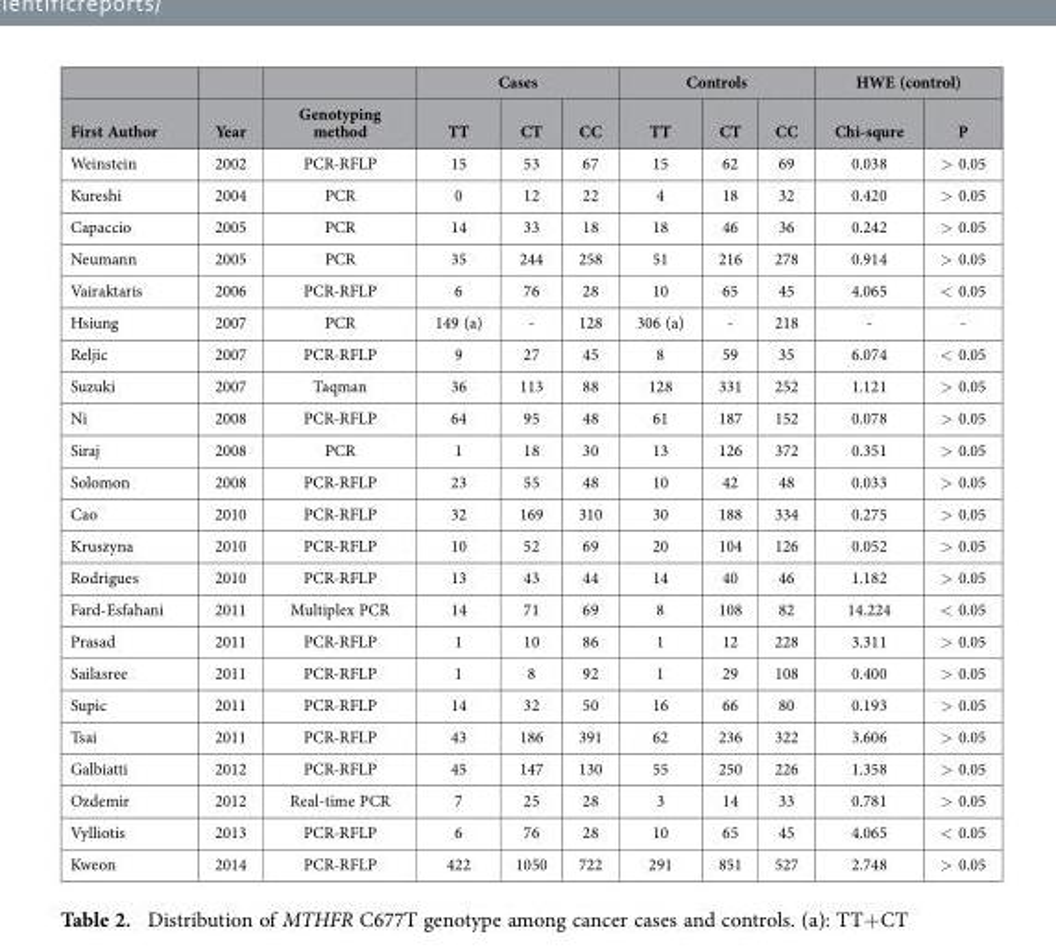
<table><thead><tr><td rowspan="2">First Author</td><td rowspan="2">Year</td><td rowspan="2">Genotyping method</td><td colspan="3">Cases</td><td colspan="3">Controls</td><td colspan="2">HWE (control)</td></tr><tr><td>TT</td><td>CT</td><td>CC</td><td>TT</td><td>CT</td><td>CC</td><td>Chi-squre</td><td>P</td></tr></thead><tbody><tr><td>Weinstein</td><td>2002</td><td>PCR-RFLP</td><td>15</td><td>53</td><td>67</td><td>15</td><td>62</td><td>69</td><td>0.038</td><td>&gt; 0.05</td></tr><tr><td>Kureshi</td><td>2004</td><td>PCR</td><td>0</td><td>12</td><td>22</td><td>4</td><td>18</td><td>32</td><td>0.420</td><td>&gt; 0.05</td></tr><tr><td>Capaccio</td><td>2005</td><td>PCR</td><td>14</td><td>33</td><td>18</td><td>18</td><td>46</td><td>36</td><td>0.242</td><td>&gt; 0.05</td></tr><tr><td>Neumann</td><td>2005</td><td>PCR</td><td>35</td><td>244</td><td>258</td><td>51</td><td>216</td><td>278</td><td>0.914</td><td>&gt; 0.05</td></tr><tr><td>Vairaktaris</td><td>2006</td><td>PCR-RFLP</td><td>6</td><td>76</td><td>28</td><td>10</td><td>65</td><td>45</td><td>4.065</td><td>&lt; 0.05</td></tr><tr><td>Hsiung</td><td>2007</td><td>PCR</td><td>149 (a)</td><td>-</td><td>128</td><td>306 (a)</td><td>-</td><td>218</td><td>-</td><td>-</td></tr><tr><td>Reljic</td><td>2007</td><td>PCR-RFLP</td><td>9</td><td>27</td><td>45</td><td>8</td><td>59</td><td>35</td><td>6.074</td><td>&lt; 0.05</td></tr><tr><td>Suzuki</td><td>2007</td><td>Taqman</td><td>36</td><td>113</td><td>88</td><td>128</td><td>331</td><td>252</td><td>1.121</td><td>&gt; 0.05</td></tr><tr><td>Ni</td><td>2008</td><td>PCR-RFLP</td><td>64</td><td>95</td><td>48</td><td>61</td><td>187</td><td>152</td><td>0.078</td><td>&gt; 0.05</td></tr><tr><td>Siraj</td><td>2008</td><td>PCR</td><td>1</td><td>18</td><td>30</td><td>13</td><td>126</td><td>372</td><td>0.351</td><td>&gt; 0.05</td></tr><tr><td>Solomon</td><td>2008</td><td>PCR-RFLP</td><td>23</td><td>55</td><td>48</td><td>10</td><td>42</td><td>48</td><td>0.033</td><td>&gt; 0.05</td></tr><tr><td>Cao</td><td>2010</td><td>PCR-RFLP</td><td>32</td><td>169</td><td>310</td><td>30</td><td>188</td><td>334</td><td>0.275</td><td>&gt; 0.05</td></tr><tr><td>Kruszyna</td><td>2010</td><td>PCR-RFLP</td><td>10</td><td>52</td><td>69</td><td>20</td><td>104</td><td>126</td><td>0.052</td><td>&gt; 0.05</td></tr><tr><td>Rodrigues</td><td>2010</td><td>PCR-RFLP</td><td>13</td><td>43</td><td>44</td><td>14</td><td>40</td><td>46</td><td>1.182</td><td>&gt; 0.05</td></tr><tr><td>Fard-Esfahani</td><td>2011</td><td>Multiplex PCR</td><td>14</td><td>71</td><td>69</td><td>8</td><td>108</td><td>82</td><td>14.224</td><td>&lt; 0.05</td></tr><tr><td>Prasad</td><td>2011</td><td>PCR-RFLP</td><td>1</td><td>10</td><td>86</td><td>1</td><td>12</td><td>228</td><td>3.311</td><td>&gt; 0.05</td></tr><tr><td>Sailasree</td><td>2011</td><td>PCR-RFLP</td><td>1</td><td>8</td><td>92</td><td>1</td><td>29</td><td>108</td><td>0.400</td><td>&gt; 0.05</td></tr><tr><td>Supic</td><td>2011</td><td>PCR-RFLP</td><td>14</td><td>32</td><td>50</td><td>16</td><td>66</td><td>80</td><td>0.193</td><td>&gt; 0.05</td></tr><tr><td>Tsai</td><td>2011</td><td>PCR-RFLP</td><td>43</td><td>186</td><td>391</td><td>62</td><td>236</td><td>322</td><td>3.606</td><td>&gt; 0.05</td></tr><tr><td>Galbiatti</td><td>2012</td><td>PCR-RFLP</td><td>45</td><td>147</td><td>130</td><td>55</td><td>250</td><td>226</td><td>1.358</td><td>&gt; 0.05</td></tr><tr><td>Ozdemir</td><td>2012</td><td>Real-time PCR</td><td>7</td><td>25</td><td>28</td><td>3</td><td>14</td><td>33</td><td>0.781</td><td>&gt; 0.05</td></tr><tr><td>Vylliotis</td><td>2013</td><td>PCR-RFLP</td><td>6</td><td>76</td><td>28</td><td>10</td><td>65</td><td>45</td><td>4.065</td><td>&lt; 0.05</td></tr><tr><td>Kweon</td><td>2014</td><td>PCR-RFLP</td><td>422</td><td>1050</td><td>722</td><td>291</td><td>851</td><td>527</td><td>2.748</td><td>&gt; 0.05</td></tr></tbody></table>